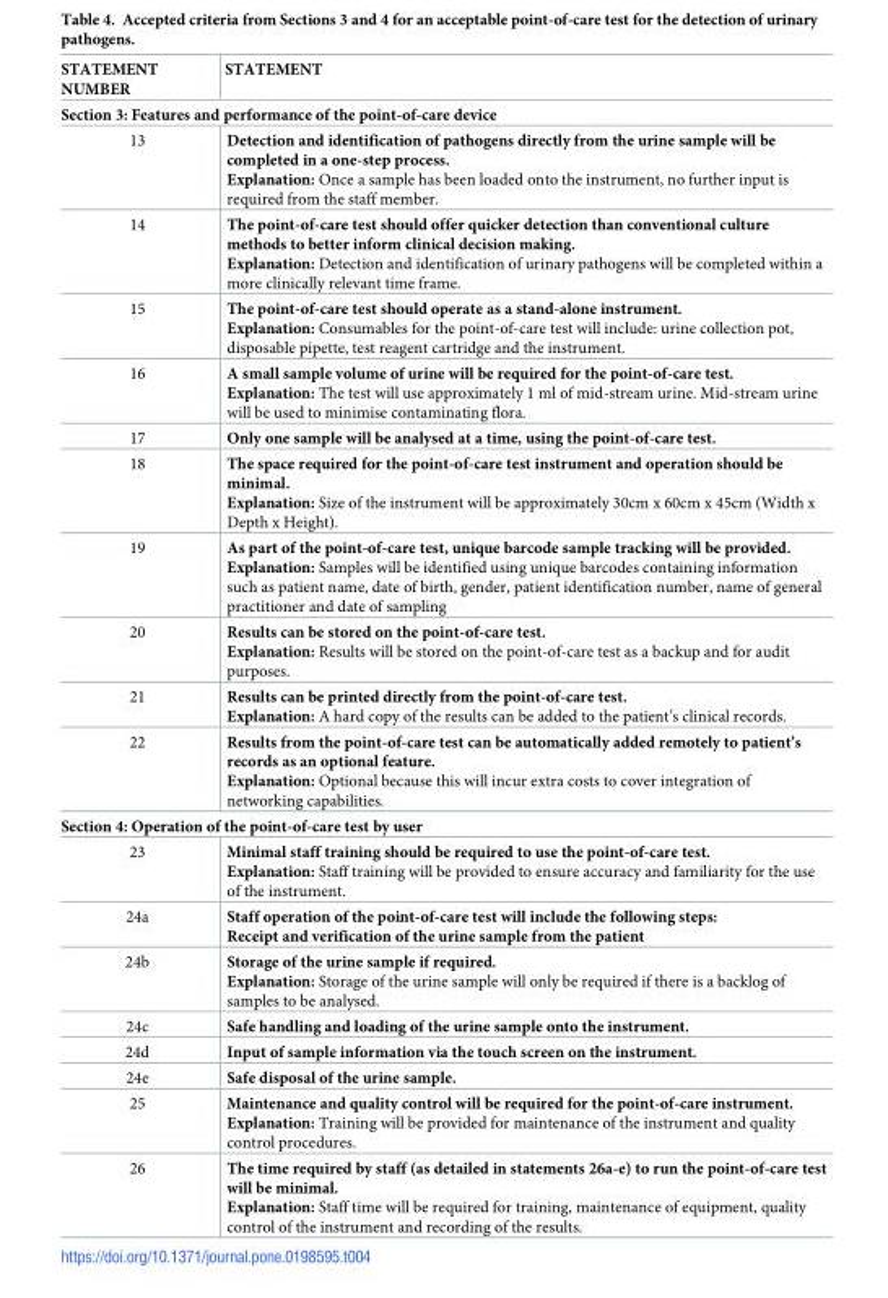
<table><thead><tr><td>STATEMENT NUMBER</td><td>STATEMENT</td></tr></thead><tbody><tr><td colspan="2">Section 3: Features and performance of the point-of-care device</td></tr><tr><td>13</td><td>Detection and identification of pathogens directly from the urine sample will be completed in a one-step process. Explanation: Once a sample has been loaded onto the instrument, no further input is required from the staff member.</td></tr><tr><td>14</td><td>The point-of-care test should offer quicker detection than conventional culture methods to better inform clinical decision making. Explanation: Detection and identification of urinary pathogens will be completed within a more clinically relevant time frame.</td></tr><tr><td>15</td><td>The point-of-care test should operate as a stand-alone instrument. Explanation: Consumables for the point-of-care test will include: urine collection pot, disposable pipette, test reagent cartridge and the instrument.</td></tr><tr><td>16</td><td>A small sample volume of urine will be required for the point-of-care test. Explanation: The test will use approximately 1 ml of mid-stream urine. Mid-stream urine will be used to minimise contaminating flora.</td></tr><tr><td>17</td><td>Only one sample will be analysed at a time, using the point-of-care test.</td></tr><tr><td>18</td><td>The space required for the point-of-care test instrument and operation should be minimal. Explanation: Size of the instrument will be approximately 30cm x 60cm x 45cm (Width x Depth x Height).</td></tr><tr><td>19</td><td>As part of the point-of-care test, unique barcode sample tracking will be provided. Explanation: Samples will be identified using unique barcodes containing information such as patient name, date of birth, gender, patient identification number, name of general practitioner and date of sampling</td></tr><tr><td>20</td><td>Results can be stored on the point-of-care test. Explanation: Results will be stored on the point-of-care test as a backup and for audit purposes.</td></tr><tr><td>21</td><td>Results can be printed directly from the point-of-care test. Explanation: A hard copy of the results can be added to the patient’s clinical records.</td></tr><tr><td>22</td><td>Results from the point-of-care test can be automatically added remotely to patient’s records as an optional feature. Explanation: Optional because this will incur extra costs to cover integration of networking capabilities.</td></tr><tr><td colspan="2">Section 4: Operation of the point-of-care test by user</td></tr><tr><td>23</td><td>Minimal staff training should be required to use the point-of-care test. Explanation: Staff training will be provided to ensure accuracy and familiarity for the use of the instrument.</td></tr><tr><td>24a</td><td>Staff operation of the point-of-care test will include the following steps: Receipt and verification of the urine sample from the patient</td></tr><tr><td>24b</td><td>Storage of the urine sample if required. Explanation: Storage of the urine sample will only be required if there is a backlog of samples to be analysed.</td></tr><tr><td>24c</td><td>Safe handling and loading of the urine sample onto the instrument.</td></tr><tr><td>24d</td><td>Input of sample information via the touch screen on the instrument.</td></tr><tr><td>24e</td><td>Safe disposal of the urine sample.</td></tr><tr><td>25</td><td>Maintenance and quality control will be required for the point-of-care instrument. Explanation: Training will be provided for maintenance of the instrument and quality control procedures.</td></tr><tr><td>26</td><td>The time required by staff (as detailed in statements 26a-e) to run the point-of-care test will be minimal. Explanation: Staff time will be required for training, maintenance of equipment, quality control of the instrument and recording of the results.</td></tr></tbody></table>